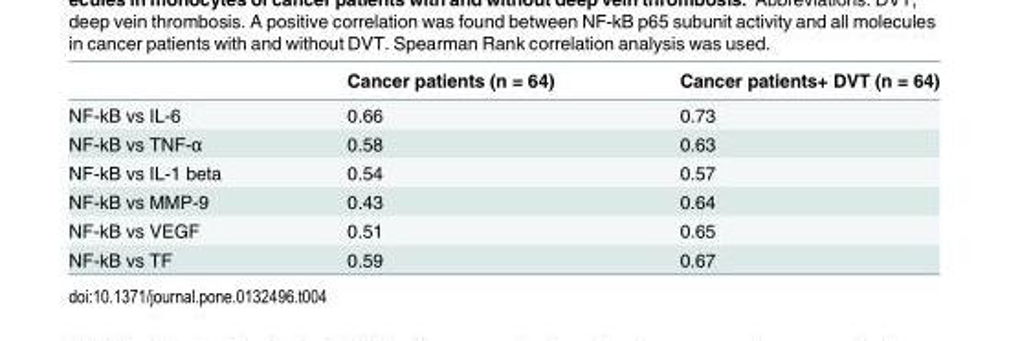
<table><thead><tr><td></td><td>Cancer patients (n = 64)</td><td>Cancer patients+ DVT (n = 64)</td></tr></thead><tbody><tr><td>NF-kB vs IL-6</td><td>0.66</td><td>0.73</td></tr><tr><td>NF-kB vs TNF-α</td><td>0.58</td><td>0.63</td></tr><tr><td>NF-kB vs IL-1 beta</td><td>0.54</td><td>0.57</td></tr><tr><td>NF-kB vs MMP-9</td><td>0.43</td><td>0.64</td></tr><tr><td>NF-kB vs VEGF</td><td>0.51</td><td>0.65</td></tr><tr><td>NF-kB vs TF</td><td>0.59</td><td>0.67</td></tr></tbody></table>